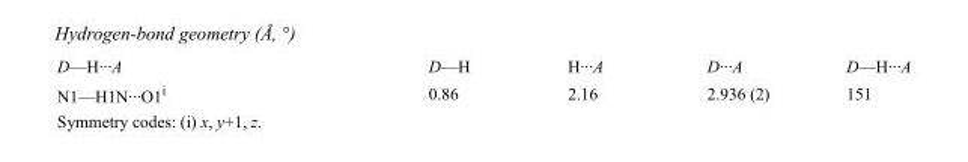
<table><tbody><tr><td>D—H···A</td><td>D—H</td><td>H···A</td><td>D···A</td><td>D—H···A</td></tr><tr><td>N1—H1N···O1<sup>i</sup></td><td>0.86</td><td>2.16</td><td>2.936 (2)</td><td>151</td></tr></tbody></table>